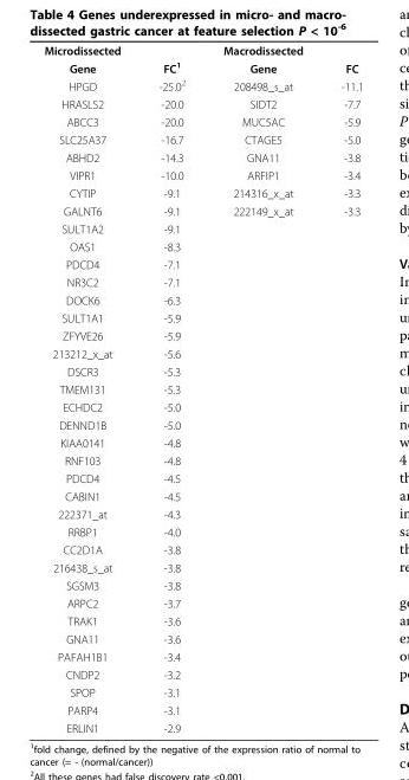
<table><tbody><tr><td>Microdissected</td><td></td><td>Macrodissected</td><td></td></tr><tr><td>Gene</td><td>FC<sup>1</sup></td><td>Gene</td><td>FC</td></tr><tr><td>HPGD</td><td>-25.0<sup>2</sup></td><td>208498_s_at</td><td>-11.1</td></tr><tr><td>HRASLS2</td><td>-20.0</td><td>SIDT2</td><td>-7.7</td></tr><tr><td>ABCC3</td><td>-20.0</td><td>MUC5AC</td><td>-5.9</td></tr><tr><td>SLC25A37</td><td>-16.7</td><td>CTAGE5</td><td>-5.0</td></tr><tr><td>ABHD2</td><td>-14.3</td><td>GNA11</td><td>-3.8</td></tr><tr><td>VIPR1</td><td>-10.0</td><td>ARFIP1</td><td>-3.4</td></tr><tr><td>CYTIP</td><td>-9.1</td><td>214316_x_at</td><td>-3.3</td></tr><tr><td>GALNT6</td><td>-9.1</td><td>222149_x_at</td><td>-3.3</td></tr><tr><td>SULT1A2</td><td>-9.1</td><td></td><td></td></tr><tr><td>OAS1</td><td>-8.3</td><td></td><td></td></tr><tr><td>PDCD4</td><td>-7.1</td><td></td><td></td></tr><tr><td>NR3C2</td><td>-7.1</td><td></td><td></td></tr><tr><td>DOCK6</td><td>-6.3</td><td></td><td></td></tr><tr><td>SULT1A1</td><td>-5.9</td><td></td><td></td></tr><tr><td>ZFYVE26</td><td>-5.9</td><td></td><td></td></tr><tr><td>213212_x_at</td><td>-5.6</td><td></td><td></td></tr><tr><td>DSCR3</td><td>-5.3</td><td></td><td></td></tr><tr><td>TMEM131</td><td>-5.3</td><td></td><td></td></tr><tr><td>ECHDC2</td><td>-5.0</td><td></td><td></td></tr><tr><td>DENND1B</td><td>-5.0</td><td></td><td></td></tr><tr><td>KIAA0141</td><td>-4.8</td><td></td><td></td></tr><tr><td>RNF103</td><td>-4.8</td><td></td><td></td></tr><tr><td>PDCD4</td><td>-4.5</td><td></td><td></td></tr><tr><td>CABIN1</td><td>-4.5</td><td></td><td></td></tr><tr><td>222371_at</td><td>-4.3</td><td></td><td></td></tr><tr><td>RRBP1</td><td>-4.0</td><td></td><td></td></tr><tr><td>CC2D1A</td><td>-3.8</td><td></td><td></td></tr><tr><td>216438_s_at</td><td>-3.8</td><td></td><td></td></tr><tr><td>SGSM3</td><td>-3.8</td><td></td><td></td></tr><tr><td>ARPC2</td><td>-3.7</td><td></td><td></td></tr><tr><td>TRAK1</td><td>-3.6</td><td></td><td></td></tr><tr><td>GNA11</td><td>-3.6</td><td></td><td></td></tr><tr><td>PAFAH1B1</td><td>-3.4</td><td></td><td></td></tr><tr><td>CNDP2</td><td>-3.2</td><td></td><td></td></tr><tr><td>SPOP</td><td>-3.1</td><td></td><td></td></tr><tr><td>PARP4</td><td>-3.1</td><td></td><td></td></tr><tr><td>ERLIN1</td><td>-2.9</td><td></td><td></td></tr></tbody></table>